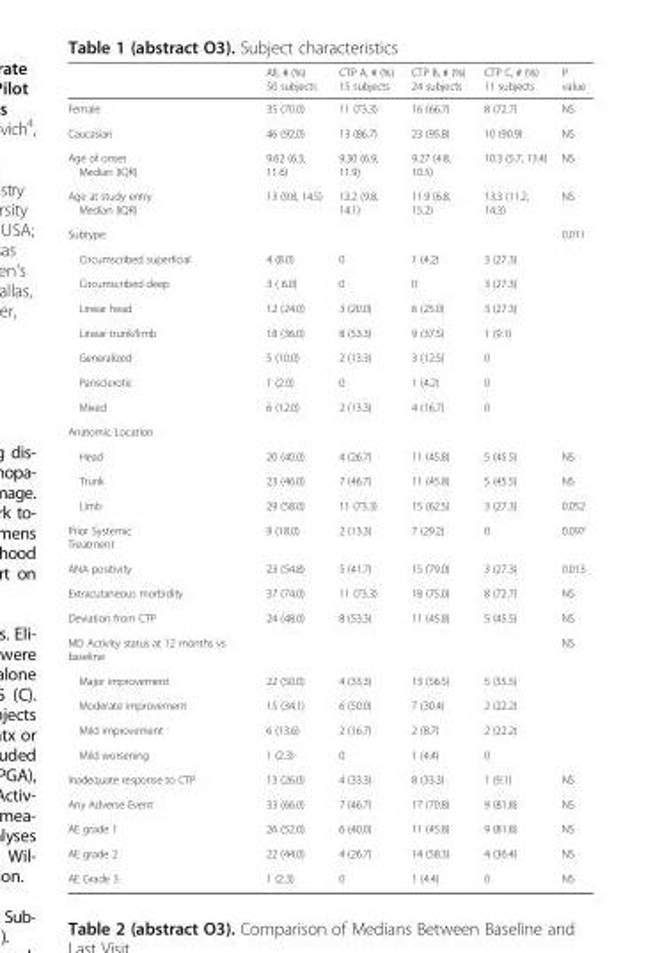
<table><thead><tr><td></td><td>All, # (%) 50 subjects</td><td>CTP A, # (%) 15 subjects</td><td>CTP B, # (%) 24 subjects</td><td>CTP C, # (%) 11 subjects</td><td>P value</td></tr></thead><tbody><tr><td>Female</td><td>35 (70.0)</td><td>11 (73.3)</td><td>16 (66.7)</td><td>8 (72.7)</td><td>NS</td></tr><tr><td>Caucasian</td><td>46 (92.0)</td><td>13 (86.7)</td><td>23 (95.8)</td><td>10 (90.9)</td><td>NS</td></tr><tr><td>Age of onset Median (IQR)</td><td>9.62 (6.3, 11.6)</td><td>9.30 (6.9, 11.9)</td><td>9.27 (4.8, 10.5)</td><td>10.3 (5.7, 13.4)</td><td>NS</td></tr><tr><td>Age at study entry Median (IQR)</td><td>13 (9.8, 14.5)</td><td>13.2 (9.8, 14.1)</td><td>11.9 (6.8, 15.2)</td><td>13.3 (11.2, 14.3)</td><td>NS</td></tr><tr><td colspan="5">Subtype:</td><td rowspan="8">0.011</td></tr><tr><td>Circumscribed superficial</td><td>4 (8.0)</td><td>0</td><td>1 (4.2)</td><td>3 (27.3)</td></tr><tr><td>Circumscribed deep</td><td>3 ( 6.0)</td><td>0</td><td>0</td><td>3 (27.3)</td></tr><tr><td>Linear head</td><td>12 (24.0)</td><td>3 (20.0)</td><td>6 (25.0)</td><td>3 (27.3)</td></tr><tr><td>Linear trunk/limb</td><td>18 (36.0)</td><td>8 (53.3)</td><td>9 (37.5)</td><td>1 (9.1)</td></tr><tr><td>Generalized</td><td>5 (10.0)</td><td>2 (13.3)</td><td>3 (12.5)</td><td>0</td></tr><tr><td>Pansclerotic</td><td>1 (2.0)</td><td>0</td><td>1 (4.2)</td><td>0</td></tr><tr><td>Mixed</td><td>6 (12.0)</td><td>2 (13.3)</td><td>4 (16.7)</td><td>0</td></tr><tr><td colspan="6">Anatomic Location</td></tr><tr><td>Head</td><td>20 (40.0)</td><td>4 (26.7)</td><td>11 (45.8)</td><td>5 (45.5)</td><td>NS</td></tr><tr><td>Trunk</td><td>23 (46.0)</td><td>7 (46.7)</td><td>11 (45.8)</td><td>5 (45.5)</td><td>NS</td></tr><tr><td>Limb</td><td>29 (58.0)</td><td>11 (73.3)</td><td>15 (62.5)</td><td>3 (27.3)</td><td>0.052</td></tr><tr><td>Prior Systemic Treatment</td><td>9 (18.0)</td><td>2 (13.3)</td><td>7 (29.2)</td><td>0</td><td>0.097</td></tr><tr><td>ANA positivity</td><td>23 (54.8)</td><td>5 (41.7)</td><td>15 (79.0)</td><td>3 (27.3)</td><td>0.013</td></tr><tr><td>Extracutaneous morbidity</td><td>37 (74.0)</td><td>11 (73.3)</td><td>18 (75.0)</td><td>8 (72.7)</td><td>NS</td></tr><tr><td>Deviation from CTP</td><td>24 (48.0)</td><td>8 (53.3)</td><td>11 (45.8)</td><td>5 (45.5)</td><td>NS</td></tr><tr><td colspan="5">MD Activity status at 12 months vs baseline</td><td rowspan="5">NS</td></tr><tr><td>Major improvement</td><td>22 (50.0)</td><td>4 (33.3)</td><td>13 (56.5)</td><td>5 (55.5)</td></tr><tr><td>Moderate improvement</td><td>15 (34.1)</td><td>6 (50.0)</td><td>7 (30.4)</td><td>2 (22.2)</td></tr><tr><td>Mild improvement</td><td>6 (13.6)</td><td>2 (16.7)</td><td>2 (8.7)</td><td>2 (22.2)</td></tr><tr><td>Mild worsening</td><td>1 (2.3)</td><td>0</td><td>1 (4.4)</td><td>0</td></tr><tr><td>Inadequate response to CTP</td><td>13 (26.0)</td><td>4 (33.3)</td><td>8 (33.3)</td><td>1 (9.1)</td><td>NS</td></tr><tr><td>Any Adverse Event</td><td>33 (66.0)</td><td>7 (46.7)</td><td>17 (70.8)</td><td>9 (81.8)</td><td>NS</td></tr><tr><td>AE grade 1</td><td>26 (52.0)</td><td>6 (40.0)</td><td>11 (45.8)</td><td>9 (81.8)</td><td>NS</td></tr><tr><td>AE grade 2</td><td>22 (44.0)</td><td>4 (26.7)</td><td>14 (58.3)</td><td>4 (36.4)</td><td>NS</td></tr><tr><td>AE Grade 3</td><td>1 (2.3)</td><td>0</td><td>1 (4.4)</td><td>0</td><td>NS</td></tr></tbody></table>